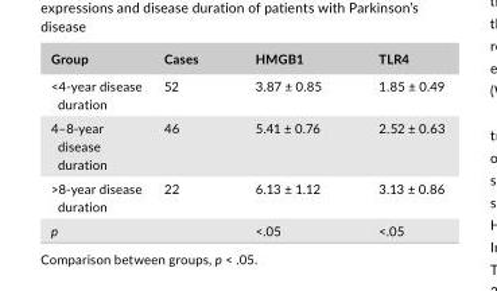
<table><thead><tr><td>Group</td><td>Cases</td><td>HMGB1</td><td>TLR4</td></tr></thead><tbody><tr><td>&lt;4- year disease duration</td><td>52</td><td>3.87 ± 0.85</td><td>1.85 ± 0.49</td></tr><tr><td>4–8- year disease duration</td><td>46</td><td>5.41 ± 0.76</td><td>2.52 ± 0.63</td></tr><tr><td>&gt;8- year disease duration</td><td>22</td><td>6.13 ± 1.12</td><td>3.13 ± 0.86</td></tr><tr><td>p</td><td></td><td>&lt;.05</td><td>&lt;.05</td></tr></tbody></table>